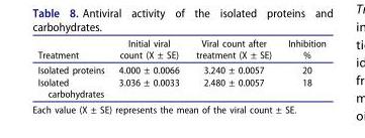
<table><thead><tr><td>Treatment</td><td>Initial viral count (X ± SE)</td><td>Viral count after treatment (X ± SE)</td><td>Inhibition %</td></tr></thead><tbody><tr><td>Isolated proteins</td><td>4.000 ± 0.0066</td><td>3.240 ± 0.0057</td><td>20</td></tr><tr><td>Isolated carbohydrates</td><td>3.036 ± 0.0033</td><td>2.480 ± 0.0057</td><td>18</td></tr></tbody></table>